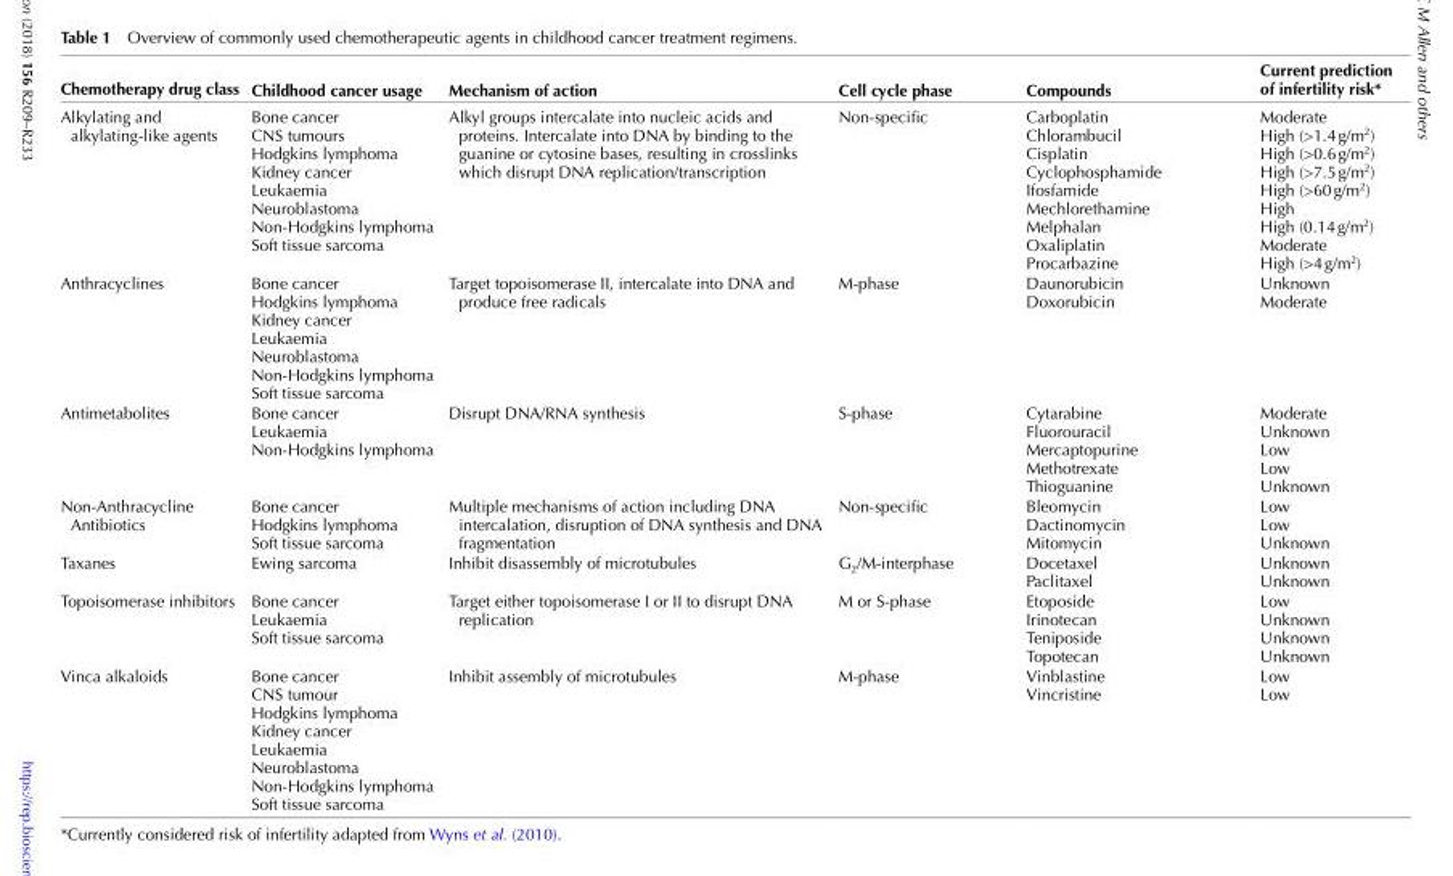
<table><thead><tr><td>Chemotherapy drug class</td><td>Childhood cancer usage</td><td>Mechanism of action</td><td>Cell cycle phase</td><td>Compounds</td><td>Current prediction of infertility risk*</td></tr></thead><tbody><tr><td>Alkylating and alkylating-like agents</td><td>Bone cancer CNS tumours Hodgkins lymphoma Kidney cancer Leukaemia Neuroblastoma Non-Hodgkins lymphoma Soft tissue sarcoma</td><td>Alkyl groups intercalate into nucleic acids and proteins. Intercalate into DNA by binding to the guanine or cytosine bases, resulting in crosslinks which disrupt DNA replication/transcription</td><td>Non-specific</td><td>Carboplatin Chlorambucil Cisplatin Cyclophosphamide Ifosfamide Mechlorethamine Melphalan Oxaliplatin Procarbazine</td><td>Moderate High (&gt;1.4 g/m<sup>2</sup>) High (&gt;0.6 g/m<sup>2</sup>) High (&gt;7.5 g/m<sup>2</sup>) High (&gt;60 g/m<sup>2</sup>) High High (0.14 g/m<sup>2</sup>) Moderate High (&gt;4 g/m<sup>2</sup>)</td></tr><tr><td>Anthracyclines</td><td>Bone cancer Hodgkins lymphoma Kidney cancer Leukaemia Neuroblastoma Non-Hodgkins lymphoma Soft tissue sarcoma</td><td>Target topoisomerase II, intercalate into DNA and produce free radicals</td><td>M-phase</td><td>Daunorubicin Doxorubicin</td><td>Unknown Moderate</td></tr><tr><td>Antimetabolites</td><td>Bone cancer Leukaemia Non-Hodgkins lymphoma</td><td>Disrupt DNA/RNA synthesis</td><td>S-phase</td><td>Cytarabine Fluorouracil Mercaptopurine Methotrexate Thioguanine</td><td>Moderate Unknown Low Low Unknown</td></tr><tr><td>Non-Anthracycline Antibiotics</td><td>Bone cancer Hodgkins lymphoma Soft tissue sarcoma</td><td>Multiple mechanisms of action including DNA intercalation, disruption of DNA synthesis and DNA fragmentation</td><td>Non-specific</td><td>Bleomycin Dactinomycin Mitomycin</td><td>Low Low Unknown</td></tr><tr><td>Taxanes</td><td>Ewing sarcoma</td><td>Inhibit disassembly of microtubules</td><td>G<sub>2</sub>/M-interphase</td><td>Docetaxel Paclitaxel</td><td>Unknown Unknown</td></tr><tr><td>Topoisomerase inhibitors</td><td>Bone cancer Leukaemia Soft tissue sarcoma</td><td>Target either topoisomerase I or II to disrupt DNA replication</td><td>M or S-phase</td><td>Etoposide Irinotecan Teniposide Topotecan</td><td>Low Unknown Unknown Unknown</td></tr><tr><td>Vinca alkaloids</td><td>Bone cancer CNS tumour Hodgkins lymphoma Kidney cancer Leukaemia Neuroblastoma Non-Hodgkins lymphoma Soft tissue sarcoma</td><td>Inhibit assembly of microtubules</td><td>M-phase</td><td>Vinblastine Vincristine</td><td>Low Low</td></tr></tbody></table>